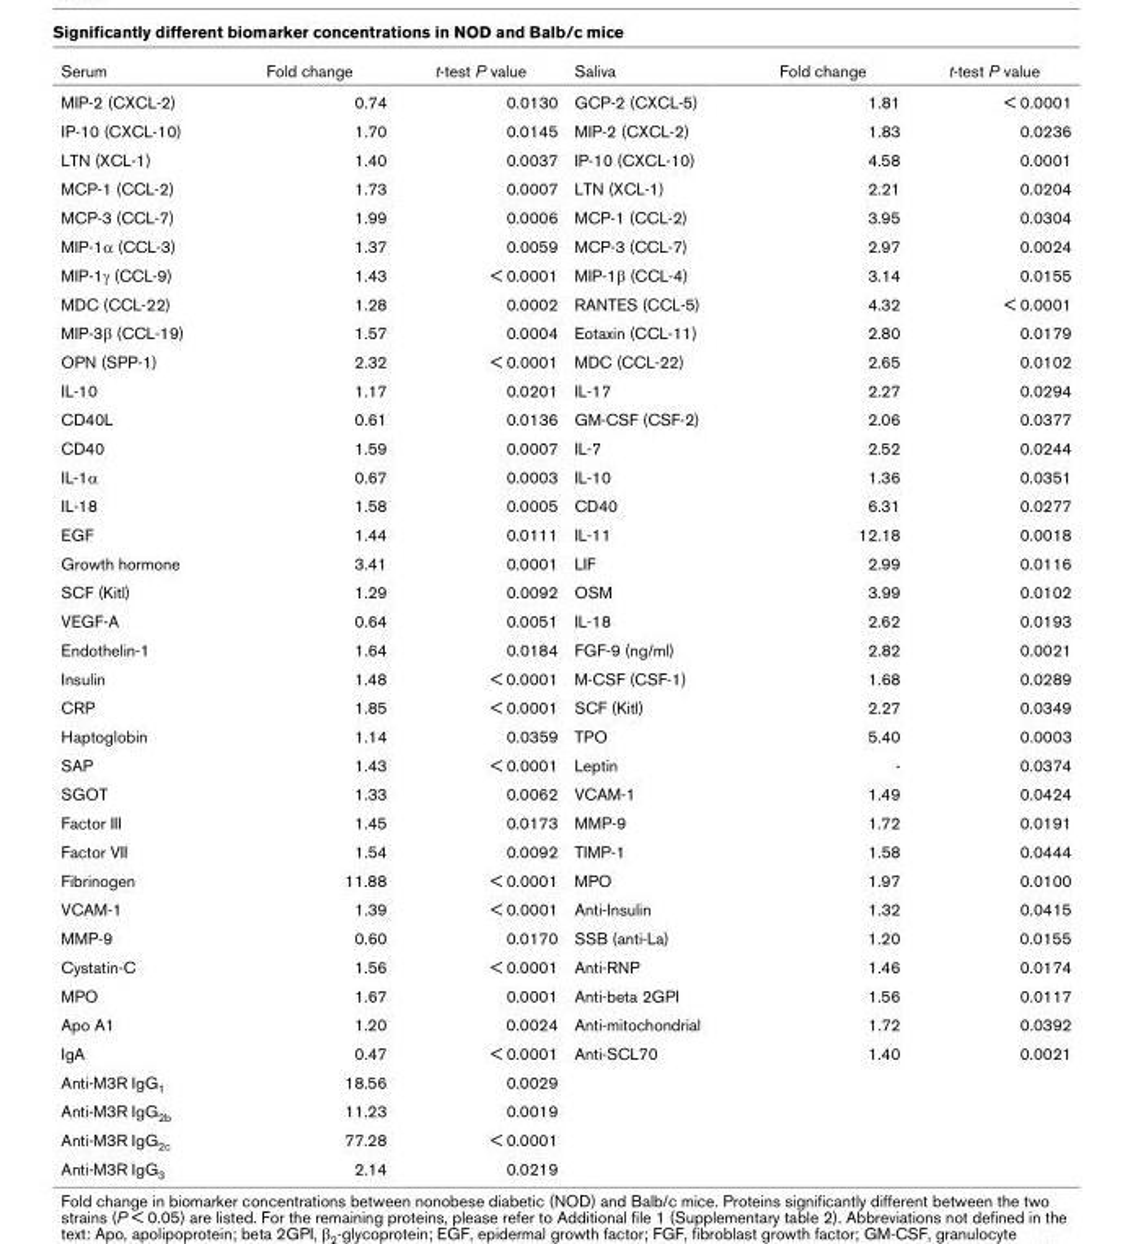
<table><thead><tr><td>Serum</td><td>Fold change</td><td>t-test P value</td><td>Saliva</td><td>Fold change</td><td>t-test P value</td></tr></thead><tbody><tr><td>MIP-2 (CXCL-2)</td><td>0.74</td><td>0.0130</td><td>GCP-2 (CXCL-5)</td><td>1.81</td><td>&lt; 0.0001</td></tr><tr><td>IP-10 (CXCL-10)</td><td>1.70</td><td>0.0145</td><td>MIP-2 (CXCL-2)</td><td>1.83</td><td>0.0236</td></tr><tr><td>LTN (XCL-1)</td><td>1.40</td><td>0.0037</td><td>IP-10 (CXCL-10)</td><td>4.58</td><td>0.0001</td></tr><tr><td>MCP-1 (CCL-2)</td><td>1.73</td><td>0.0007</td><td>LTN (XCL-1)</td><td>2.21</td><td>0.0204</td></tr><tr><td>MCP-3 (CCL-7)</td><td>1.99</td><td>0.0006</td><td>MCP-1 (CCL-2)</td><td>3.95</td><td>0.0304</td></tr><tr><td>MIP-1α (CCL-3)</td><td>1.37</td><td>0.0059</td><td>MCP-3 (CCL-7)</td><td>2.97</td><td>0.0024</td></tr><tr><td>MIP-1γ (CCL-9)</td><td>1.43</td><td>&lt; 0.0001</td><td>MIP-1β (CCL-4)</td><td>3.14</td><td>0.0155</td></tr><tr><td>MDC (CCL-22)</td><td>1.28</td><td>0.0002</td><td>RANTES (CCL-5)</td><td>4.32</td><td>&lt; 0.0001</td></tr><tr><td>MIP-3β (CCL-19)</td><td>1.57</td><td>0.0004</td><td>Eotaxin (CCL-11)</td><td>2.80</td><td>0.0179</td></tr><tr><td>OPN (SPP-1)</td><td>2.32</td><td>&lt; 0.0001</td><td>MDC (CCL-22)</td><td>2.65</td><td>0.0102</td></tr><tr><td>IL-10</td><td>1.17</td><td>0.0201</td><td>IL-17</td><td>2.27</td><td>0.0294</td></tr><tr><td>CD40L</td><td>0.61</td><td>0.0136</td><td>GM-CSF (CSF-2)</td><td>2.06</td><td>0.0377</td></tr><tr><td>CD40</td><td>1.59</td><td>0.0007</td><td>IL-7</td><td>2.52</td><td>0.0244</td></tr><tr><td>IL-1α</td><td>0.67</td><td>0.0003</td><td>IL-10</td><td>1.36</td><td>0.0351</td></tr><tr><td>IL-18</td><td>1.58</td><td>0.0005</td><td>CD40</td><td>6.31</td><td>0.0277</td></tr><tr><td>EGF</td><td>1.44</td><td>0.0111</td><td>IL-11</td><td>12.18</td><td>0.0018</td></tr><tr><td>Growth hormone</td><td>3.41</td><td>0.0001</td><td>LIF</td><td>2.99</td><td>0.0116</td></tr><tr><td>SCF (Kitl)</td><td>1.29</td><td>0.0092</td><td>OSM</td><td>3.99</td><td>0.0102</td></tr><tr><td>VEGF-A</td><td>0.64</td><td>0.0051</td><td>IL-18</td><td>2.62</td><td>0.0193</td></tr><tr><td>Endothelin-1</td><td>1.64</td><td>0.0184</td><td>FGF-9 (ng/ml)</td><td>2.82</td><td>0.0021</td></tr><tr><td>Insulin</td><td>1.48</td><td>&lt; 0.0001</td><td>M-CSF (CSF-1)</td><td>1.68</td><td>0.0289</td></tr><tr><td>CRP</td><td>1.85</td><td>&lt; 0.0001</td><td>SCF (Kitl)</td><td>2.27</td><td>0.0349</td></tr><tr><td>Haptoglobin</td><td>1.14</td><td>0.0359</td><td>TPO</td><td>5.40</td><td>0.0003</td></tr><tr><td>SAP</td><td>1.43</td><td>&lt; 0.0001</td><td>Leptin</td><td>-</td><td>0.0374</td></tr><tr><td>SGOT</td><td>1.33</td><td>0.0062</td><td>VCAM-1</td><td>1.49</td><td>0.0424</td></tr><tr><td>Factor III</td><td>1.45</td><td>0.0173</td><td>MMP-9</td><td>1.72</td><td>0.0191</td></tr><tr><td>Factor VII</td><td>1.54</td><td>0.0092</td><td>TIMP-1</td><td>1.58</td><td>0.0444</td></tr><tr><td>Fibrinogen</td><td>11.88</td><td>&lt; 0.0001</td><td>MPO</td><td>1.97</td><td>0.0100</td></tr><tr><td>VCAM-1</td><td>1.39</td><td>&lt; 0.0001</td><td>Anti-Insulin</td><td>1.32</td><td>0.0415</td></tr><tr><td>MMP-9</td><td>0.60</td><td>0.0170</td><td>SSB (anti-La)</td><td>1.20</td><td>0.0155</td></tr><tr><td>Cystatin-C</td><td>1.56</td><td>&lt; 0.0001</td><td>Anti-RNP</td><td>1.46</td><td>0.0174</td></tr><tr><td>MPO</td><td>1.67</td><td>0.0001</td><td>Anti-beta 2GPI</td><td>1.56</td><td>0.0117</td></tr><tr><td>Apo A1</td><td>1.20</td><td>0.0024</td><td>Anti-mitochondrial</td><td>1.72</td><td>0.0392</td></tr><tr><td>IgA</td><td>0.47</td><td>&lt; 0.0001</td><td>Anti-SCL70</td><td>1.40</td><td>0.0021</td></tr><tr><td>Anti-M3R IgG<sub>1</sub></td><td>18.56</td><td>0.0029</td><td></td><td></td><td></td></tr><tr><td>Anti-M3R IgG<sub>2b</sub></td><td>11.23</td><td>0.0019</td><td></td><td></td><td></td></tr><tr><td>Anti-M3R IgG<sub>2c</sub></td><td>77.28</td><td>&lt; 0.0001</td><td></td><td></td><td></td></tr><tr><td>Anti-M3R IgG<sub>3</sub></td><td>2.14</td><td>0.0219</td><td></td><td></td><td></td></tr></tbody></table>